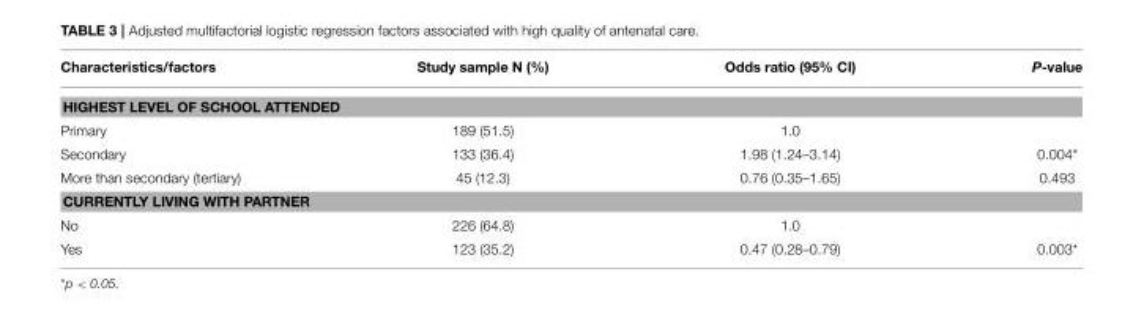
<table><thead><tr><td>Characteristics/factors</td><td>Study sample N (%)</td><td>Odds ratio (95% CI)</td><td>P-value</td></tr></thead><tbody><tr><td colspan="4">HIGHEST LEVEL OF SCHOOL ATTENDED</td></tr><tr><td>Primary</td><td>189 (51.5)</td><td>1.0</td><td></td></tr><tr><td>Secondary</td><td>133 (36.4)</td><td>1.98 (1.24–3.14)</td><td>0.004*</td></tr><tr><td>More than secondary (tertiary)</td><td>45 (12.3)</td><td>0.76 (0.35–1.65)</td><td>0.493</td></tr><tr><td colspan="4">CURRENTLY LIVING WITH PARTNER</td></tr><tr><td>No</td><td>226 (64.8)</td><td>1.0</td><td></td></tr><tr><td>Yes</td><td>123 (35.2)</td><td>0.47 (0.28–0.79)</td><td>0.003*</td></tr></tbody></table>